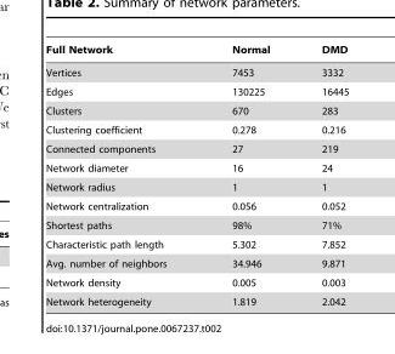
<table><thead><tr><td>Full Network</td><td>Normal</td><td>DMD</td></tr></thead><tbody><tr><td>Vertices</td><td>7453</td><td>3332</td></tr><tr><td>Edges</td><td>130225</td><td>16445</td></tr><tr><td>Clusters</td><td>670</td><td>283</td></tr><tr><td>Clustering coefficient</td><td>0.278</td><td>0.216</td></tr><tr><td>Connected components</td><td>27</td><td>219</td></tr><tr><td>Network diameter</td><td>16</td><td>24</td></tr><tr><td>Network radius</td><td>1</td><td>1</td></tr><tr><td>Network centralization</td><td>0.056</td><td>0.052</td></tr><tr><td>Shortest paths</td><td>98%</td><td>71%</td></tr><tr><td>Characteristic path length</td><td>5.302</td><td>7.852</td></tr><tr><td>Avg. number of neighbors</td><td>34.946</td><td>9.871</td></tr><tr><td>Network density</td><td>0.005</td><td>0.003</td></tr><tr><td>Network heterogeneity</td><td>1.819</td><td>2.042</td></tr></tbody></table>